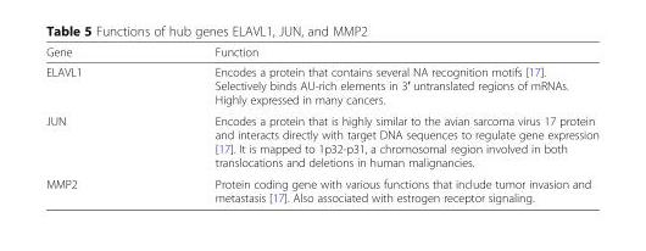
<table><thead><tr><td>Gene</td><td>Function</td></tr></thead><tbody><tr><td>ELAVL1</td><td>Encodes a protein that contains several NA recognition motifs [17]. Selectively binds AU-rich elements in 3′ untranslated regions of mRNAs. Highly expressed in many cancers.</td></tr><tr><td>JUN</td><td>Encodes a protein that is highly similar to the avian sarcoma virus 17 protein and interacts directly with target DNA sequences to regulate gene expression [17]. It is mapped to 1p32-p31, a chromosomal region involved in both translocations and deletions in human malignancies.</td></tr><tr><td>MMP2</td><td>Protein coding gene with various functions that include tumor invasion and metastasis [17]. Also associated with estrogen receptor signaling.</td></tr></tbody></table>